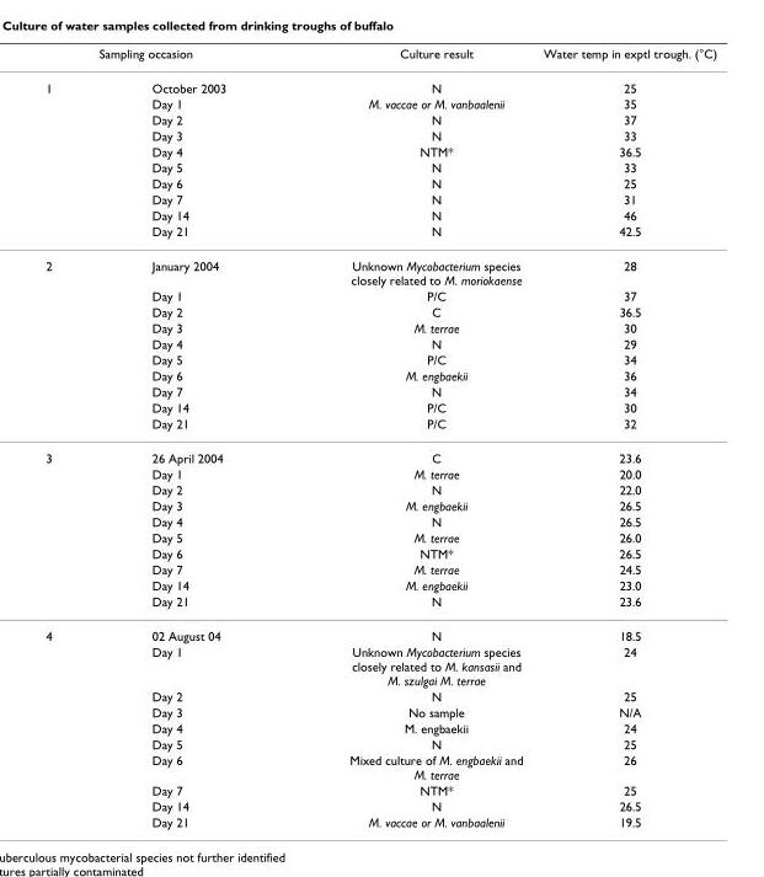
<table><thead><tr><td colspan="2">Sampling occasion</td><td rowspan="2">Culture result N</td><td rowspan="2">Water temp in exptl trough. (°C) 25</td></tr><tr><td>1</td><td>October 2003</td></tr></thead><tbody><tr><td></td><td>Day 1</td><td>M. vaccae or M. vanbaalenii</td><td>35</td></tr><tr><td></td><td>Day 2</td><td>N</td><td>37</td></tr><tr><td></td><td>Day 3</td><td>N</td><td>33</td></tr><tr><td></td><td>Day 4</td><td>NTM*</td><td>36.5</td></tr><tr><td></td><td>Day 5</td><td>N</td><td>33</td></tr><tr><td></td><td>Day 6</td><td>N</td><td>25</td></tr><tr><td></td><td>Day 7</td><td>N</td><td>31</td></tr><tr><td></td><td>Day 14</td><td>N</td><td>46</td></tr><tr><td></td><td>Day 21</td><td>N</td><td>42.5</td></tr><tr><td rowspan="10">2</td><td>January 2004</td><td>Unknown Mycobacterium species closely related to M. moriokaense</td><td>28</td></tr><tr><td>Day 1</td><td>P/C</td><td>37</td></tr><tr><td>Day 2</td><td>C</td><td>36.5</td></tr><tr><td>Day 3</td><td>M. terrae</td><td>30</td></tr><tr><td>Day 4</td><td>N</td><td>29</td></tr><tr><td>Day 5</td><td>P/C</td><td>34</td></tr><tr><td>Day 6</td><td>M. engbaekii</td><td>36</td></tr><tr><td>Day 7</td><td>N</td><td>34</td></tr><tr><td>Day 14</td><td>P/C</td><td>30</td></tr><tr><td>Day 21</td><td>P/C</td><td>32</td></tr><tr><td rowspan="10">3</td><td>26 April 2004</td><td>C</td><td>23.6</td></tr><tr><td>Day 1</td><td>M. terrae</td><td>20.0</td></tr><tr><td>Day 2</td><td>N</td><td>22.0</td></tr><tr><td>Day 3</td><td>M. engbaekii</td><td>26.5</td></tr><tr><td>Day 4</td><td>N</td><td>26.5</td></tr><tr><td>Day 5</td><td>M. terrae</td><td>26.0</td></tr><tr><td>Day 6</td><td>NTM*</td><td>26.5</td></tr><tr><td>Day 7</td><td>M. terrae</td><td>24.5</td></tr><tr><td>Day 14</td><td>M. engbaekii</td><td>23.0</td></tr><tr><td>Day 21</td><td>N</td><td>23.6</td></tr><tr><td rowspan="10">4</td><td>02 August 04</td><td>N</td><td>18.5</td></tr><tr><td>Day 1</td><td>Unknown Mycobacterium species closely related to M. kansasii and M. szulgai M. terrae</td><td>24</td></tr><tr><td>Day 2</td><td>N</td><td>25</td></tr><tr><td>Day 3</td><td>No sample</td><td>N/A</td></tr><tr><td>Day 4</td><td>M. engbaekii</td><td>24</td></tr><tr><td>Day 5</td><td>N</td><td>25</td></tr><tr><td>Day 6</td><td>Mixed culture of M. engbaekii and M. terrae</td><td>26</td></tr><tr><td>Day 7</td><td>NTM*</td><td>25</td></tr><tr><td>Day 14</td><td>N</td><td>26.5</td></tr><tr><td>Day 21</td><td>M. vaccae or M. vanbaalenii</td><td>19.5</td></tr></tbody></table>